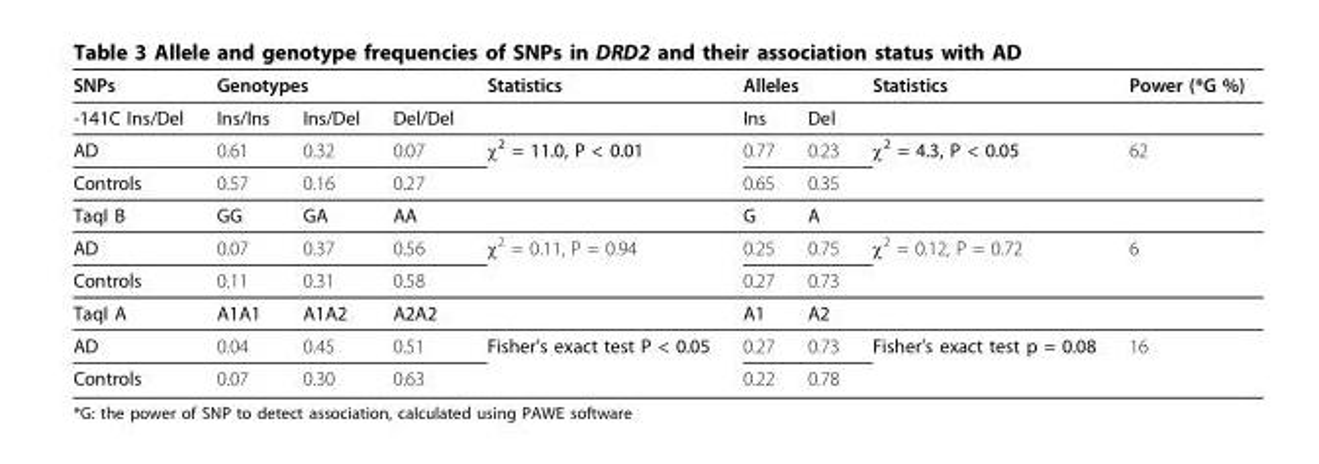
<table><thead><tr><td rowspan="2">SNPs -141C Ins/Del</td><td colspan="3">Genotypes</td><td rowspan="2">Statistics</td><td colspan="2">Alleles</td><td rowspan="2">Statistics</td><td rowspan="2">Power (*G %)</td></tr><tr><td>Ins/Ins</td><td>Ins/Del</td><td>Del/Del</td><td>Ins</td><td>Del</td></tr></thead><tbody><tr><td>AD</td><td>0.61</td><td>0.32</td><td>0.07</td><td>χ<sup>2</sup> = 11.0, P &lt; 0.01</td><td>0.77</td><td>0.23</td><td>χ<sup>2</sup> = 4.3, P &lt; 0.05</td><td>62</td></tr><tr><td>Controls</td><td>0.57</td><td>0.16</td><td>0.27</td><td></td><td>0.65</td><td>0.35</td><td></td><td></td></tr><tr><td>TaqI B</td><td>GG</td><td>GA</td><td>AA</td><td></td><td>G</td><td>A</td><td></td><td></td></tr><tr><td>AD</td><td>0.07</td><td>0.37</td><td>0.56</td><td>χ<sup>2</sup> = 0.11, P = 0.94</td><td>0.25</td><td>0.75</td><td>χ<sup>2</sup> = 0.12, P = 0.72</td><td>6</td></tr><tr><td>Controls</td><td>0.11</td><td>0.31</td><td>0.58</td><td></td><td>0.27</td><td>0.73</td><td></td><td></td></tr><tr><td>TaqI A</td><td>A1A1</td><td>A1A2</td><td>A2A2</td><td></td><td>A1</td><td>A2</td><td></td><td></td></tr><tr><td>AD</td><td>0.04</td><td>0.45</td><td>0.51</td><td>Fisher’s exact test P &lt; 0.05</td><td>0.27</td><td>0.73</td><td>Fisher’s exact test p = 0.08</td><td>16</td></tr><tr><td>Controls</td><td>0.07</td><td>0.30</td><td>0.63</td><td></td><td>0.22</td><td>0.78</td><td></td><td></td></tr></tbody></table>